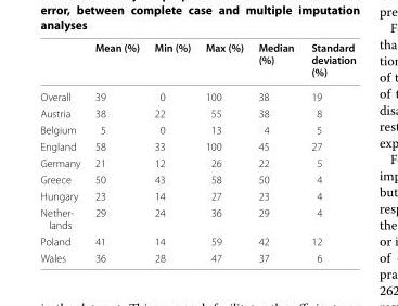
<table><thead><tr><td></td><td>Mean (%)</td><td>Min (%)</td><td>Max (%)</td><td>Median (%)</td><td>Standard deviation (%)</td></tr></thead><tbody><tr><td>Overall</td><td>39</td><td>0</td><td>100</td><td>38</td><td>19</td></tr><tr><td>Austria</td><td>38</td><td>22</td><td>55</td><td>38</td><td>8</td></tr><tr><td>Belgium</td><td>5</td><td>0</td><td>13</td><td>4</td><td>5</td></tr><tr><td>England</td><td>58</td><td>33</td><td>100</td><td>45</td><td>27</td></tr><tr><td>Germany</td><td>21</td><td>12</td><td>26</td><td>22</td><td>5</td></tr><tr><td>Greece</td><td>50</td><td>43</td><td>58</td><td>50</td><td>4</td></tr><tr><td>Hungary</td><td>23</td><td>14</td><td>27</td><td>23</td><td>4</td></tr><tr><td>Nether- lands</td><td>29</td><td>24</td><td>36</td><td>29</td><td>4</td></tr><tr><td>Poland</td><td>41</td><td>14</td><td>59</td><td>42</td><td>12</td></tr><tr><td>Wales</td><td>36</td><td>28</td><td>47</td><td>37</td><td>6</td></tr></tbody></table>